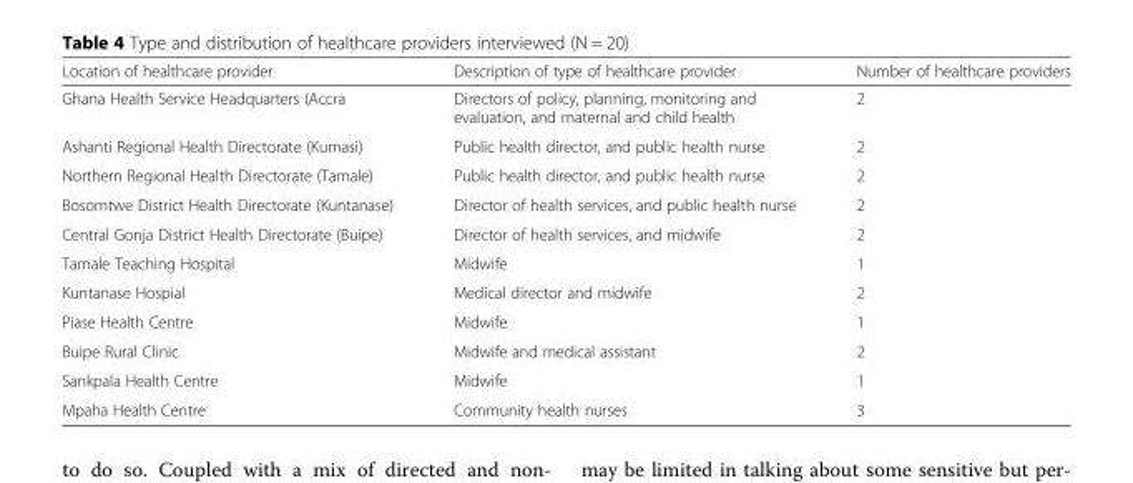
<table><thead><tr><td>Location of healthcare provider</td><td>Description of type of healthcare provider</td><td>Number of healthcare providers</td></tr></thead><tbody><tr><td>Ghana Health Service Headquarters (Accra</td><td>Directors of policy, planning, monitoring and evaluation, and maternal and child health</td><td>2</td></tr><tr><td>Ashanti Regional Health Directorate (Kumasi)</td><td>Public health director, and public health nurse</td><td>2</td></tr><tr><td>Northern Regional Health Directorate (Tamale)</td><td>Public health director, and public health nurse</td><td>2</td></tr><tr><td>Bosomtwe District Health Directorate (Kuntanase)</td><td>Director of health services, and public health nurse</td><td>2</td></tr><tr><td>Central Gonja District Health Directorate (Buipe)</td><td>Director of health services, and midwife</td><td>2</td></tr><tr><td>Tamale Teaching Hospital</td><td>Midwife</td><td>1</td></tr><tr><td>Kuntanase Hospial</td><td>Medical director and midwife</td><td>2</td></tr><tr><td>Piase Health Centre</td><td>Midwife</td><td>1</td></tr><tr><td>Buipe Rural Clinic</td><td>Midwife and medical assistant</td><td>2</td></tr><tr><td>Sankpala Health Centre</td><td>Midwife</td><td>1</td></tr><tr><td>Mpaha Health Centre</td><td>Community health nurses</td><td>3</td></tr></tbody></table>